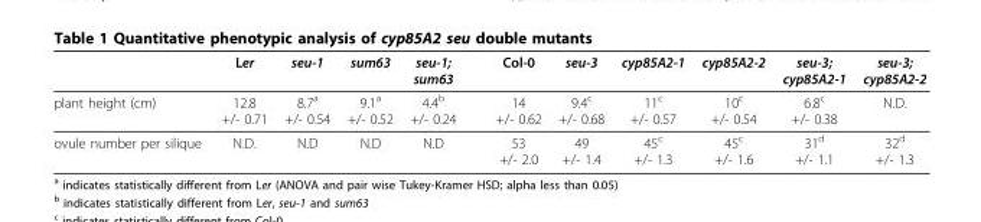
<table><thead><tr><td></td><td>Ler</td><td>seu-1</td><td>sum63</td><td>seu-1; sum63</td><td>Col-0</td><td>seu-3</td><td>cyp85A2-1</td><td>cyp85A2-2</td><td>seu-3; cyp85A2-1</td><td>seu-3; cyp85A2-2</td></tr></thead><tbody><tr><td>plant height (cm)</td><td>12.8 +/- 0.71</td><td>8.7<sup>a</sup> +/- 0.54</td><td>9.1<sup>a</sup> +/- 0.52</td><td>4.4<sup>b</sup> +/- 0.24</td><td>14 +/- 0.62</td><td>9.4<sup>c</sup> +/- 0.68</td><td>11<sup>c</sup> +/- 0.57</td><td>10<sup>c</sup> +/- 0.54</td><td>6.8<sup>c</sup> +/- 0.38</td><td>N.D.</td></tr><tr><td>ovule number per silique</td><td>N.D.</td><td>N.D</td><td>N.D</td><td>N.D</td><td>53 +/- 2.0</td><td>49 +/- 1.4</td><td>45<sup>c</sup> +/- 1.3</td><td>45<sup>c</sup> +/- 1.6</td><td>31<sup>d</sup> +/- 1.1</td><td>32<sup>d</sup> +/- 1.3</td></tr></tbody></table>